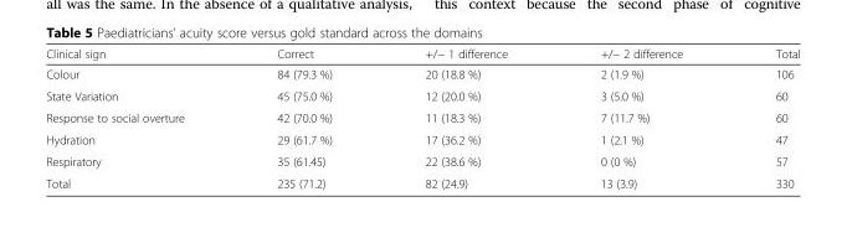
<table><thead><tr><td>Clinical sign</td><td>Correct</td><td>+/− 1 difference</td><td>+/− 2 difference</td><td>Total</td></tr></thead><tbody><tr><td>Colour</td><td>84 (79.3 %)</td><td>20 (18.8 %)</td><td>2 (1.9 %)</td><td>106</td></tr><tr><td>State Variation</td><td>45 (75.0 %)</td><td>12 (20.0 %)</td><td>3 (5.0 %)</td><td>60</td></tr><tr><td>Response to social overture</td><td>42 (70.0 %)</td><td>11 (18.3 %)</td><td>7 (11.7 %)</td><td>60</td></tr><tr><td>Hydration</td><td>29 (61.7 %)</td><td>17 (36.2 %)</td><td>1 (2.1 %)</td><td>47</td></tr><tr><td>Respiratory</td><td>35 (61.45)</td><td>22 (38.6 %)</td><td>0 (0 %)</td><td>57</td></tr><tr><td>Total</td><td>235 (71.2)</td><td>82 (24.9)</td><td>13 (3.9)</td><td>330</td></tr></tbody></table>